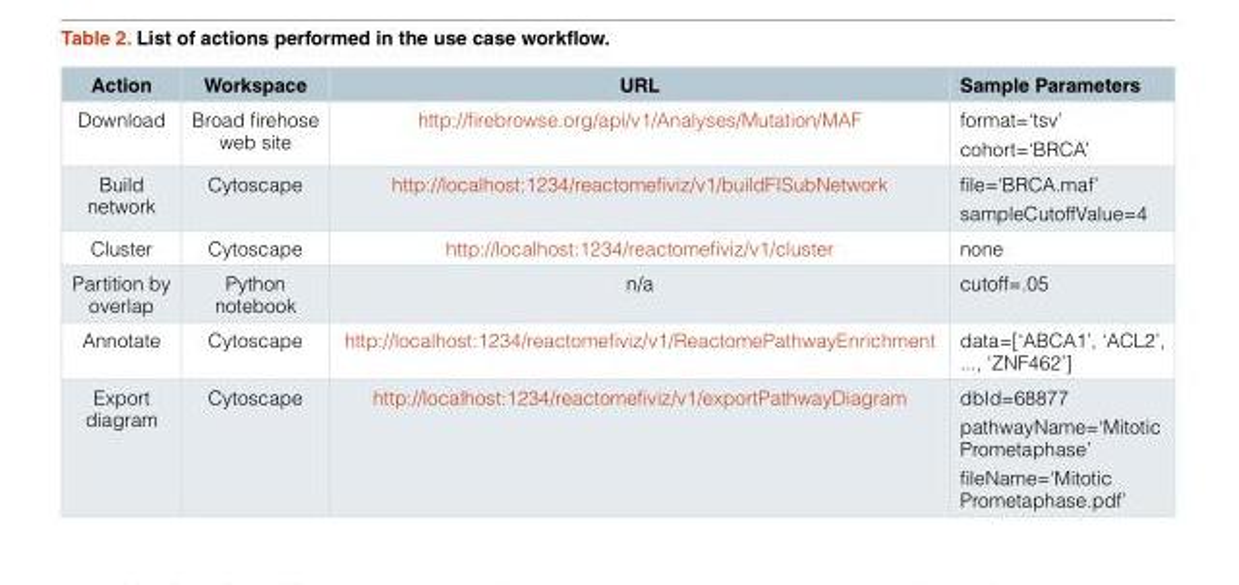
<table><thead><tr><td>Action</td><td>Workspace</td><td>URL</td><td>Sample Parameters</td></tr></thead><tbody><tr><td>Download</td><td>Broad firehose web site</td><td>http://firebrowse.org/api/v1/Analyses/Mutation/MAF</td><td>format=‘tsv’ cohort=‘BRCA’</td></tr><tr><td>Build network</td><td>Cytoscape</td><td>http://localhost:1234/reactomefiviz/v1/buildFISubNetwork</td><td>file=‘BRCA.maf’ sampleCutoffValue=4</td></tr><tr><td>Cluster</td><td>Cytoscape</td><td>http://localhost:1234/reactomefiviz/v1/cluster</td><td>none</td></tr><tr><td>Partition by overlap</td><td>Python notebook</td><td>n/a</td><td>cutoff=.05</td></tr><tr><td>Annotate</td><td>Cytoscape</td><td>http://localhost:1234/reactomefiviz/v1/ReactomePathwayEnrichment</td><td>data=[‘ABCA1’, ‘ACL2’, ..., ‘ZNF462’]</td></tr><tr><td>Export diagram</td><td>Cytoscape</td><td>http://localhost:1234/reactomefiviz/v1/exportPathwayDiagram</td><td>dbId=68877 pathwayName=‘Mitotic Prometaphase’ fileName=‘Mitotic Prometaphase.pdf’</td></tr></tbody></table>